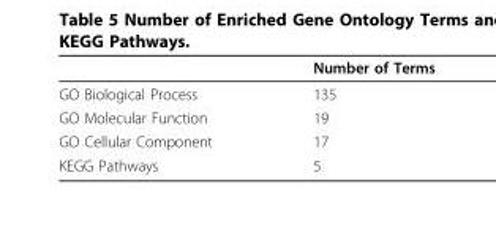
<table><thead><tr><td></td><td>Number of Terms</td></tr></thead><tbody><tr><td>GO Biological Process</td><td>135</td></tr><tr><td>GO Molecular Function</td><td>19</td></tr><tr><td>GO Cellular Component</td><td>17</td></tr><tr><td>KEGG Pathways</td><td>5</td></tr></tbody></table>